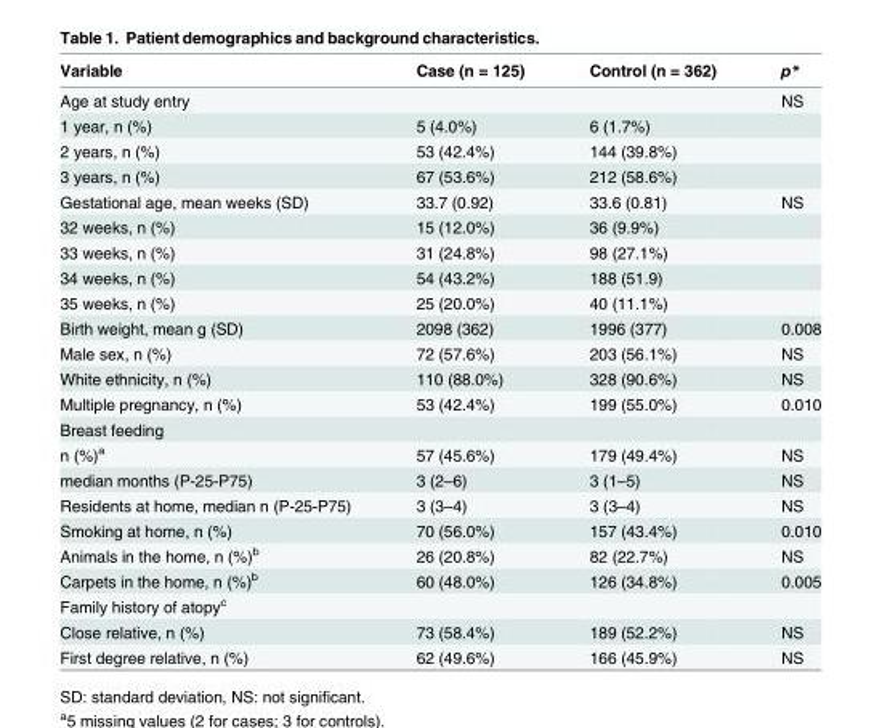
<table><thead><tr><td>Variable</td><td>Case (n = 125)</td><td>Control (n = 362)</td><td>p*</td></tr></thead><tbody><tr><td>Age at study entry</td><td></td><td></td><td>NS</td></tr><tr><td>1 year, n (%)</td><td>5 (4.0%)</td><td>6 (1.7%)</td><td></td></tr><tr><td>2 years, n (%)</td><td>53 (42.4%)</td><td>144 (39.8%)</td><td></td></tr><tr><td>3 years, n (%)</td><td>67 (53.6%)</td><td>212 (58.6%)</td><td></td></tr><tr><td>Gestational age, mean weeks (SD)</td><td>33.7 (0.92)</td><td>33.6 (0.81)</td><td>NS</td></tr><tr><td>32 weeks, n (%)</td><td>15 (12.0%)</td><td>36 (9.9%)</td><td></td></tr><tr><td>33 weeks, n (%)</td><td>31 (24.8%)</td><td>98 (27.1%)</td><td></td></tr><tr><td>34 weeks, n (%)</td><td>54 (43.2%)</td><td>188 (51.9)</td><td></td></tr><tr><td>35 weeks, n (%)</td><td>25 (20.0%)</td><td>40 (11.1%)</td><td></td></tr><tr><td>Birth weight, mean g (SD)</td><td>2098 (362)</td><td>1996 (377)</td><td>0.008</td></tr><tr><td>Male sex, n (%)</td><td>72 (57.6%)</td><td>203 (56.1%)</td><td>NS</td></tr><tr><td>White ethnicity, n (%)</td><td>110 (88.0%)</td><td>328 (90.6%)</td><td>NS</td></tr><tr><td>Multiple pregnancy, n (%)</td><td>53 (42.4%)</td><td>199 (55.0%)</td><td>0.010</td></tr><tr><td colspan="4">Breast feeding</td></tr><tr><td>n (%)<sup>a</sup></td><td>57 (45.6%)</td><td>179 (49.4%)</td><td>NS</td></tr><tr><td>median months (P-25-P75)</td><td>3 (2–6)</td><td>3 (1–5)</td><td>NS</td></tr><tr><td>Residents at home, median n (P-25-P75)</td><td>3 (3–4)</td><td>3 (3–4)</td><td>NS</td></tr><tr><td>Smoking at home, n (%)</td><td>70 (56.0%)</td><td>157 (43.4%)</td><td>0.010</td></tr><tr><td>Animals in the home, n (%)<sup>b</sup></td><td>26 (20.8%)</td><td>82 (22.7%)</td><td>NS</td></tr><tr><td>Carpets in the home, n (%)<sup>b</sup></td><td>60 (48.0%)</td><td>126 (34.8%)</td><td>0.005</td></tr><tr><td colspan="4">Family history of atopy<sup>c</sup></td></tr><tr><td>Close relative, n (%)</td><td>73 (58.4%)</td><td>189 (52.2%)</td><td>NS</td></tr><tr><td>First degree relative, n (%)</td><td>62 (49.6%)</td><td>166 (45.9%)</td><td>NS</td></tr></tbody></table>